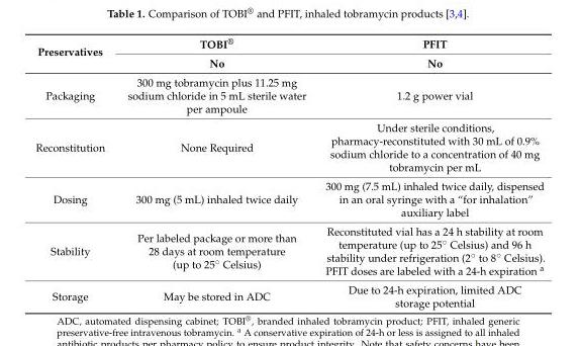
<table><thead><tr><td rowspan="2">Preservatives</td><td rowspan="2">TOBI<sup>®</sup> No</td><td rowspan="2">PFIT No</td></tr><tr></tr></thead><tbody><tr><td>Packaging</td><td>300 mg tobramycin plus 11.25 mg sodium chloride in 5 mL sterile water per ampoule</td><td>1.2 g power vial</td></tr><tr><td>Reconstitution</td><td>None Required</td><td>Under sterile conditions, pharmacy-reconstituted with 30 mL of 0.9% sodium chloride to a concentration of 40 mg tobramycin per mL</td></tr><tr><td>Dosing</td><td>300 mg (5 mL) inhaled twice daily</td><td>300 mg (7.5 mL) inhaled twice daily, dispensed in an oral syringe with a “for inhalation” auxiliary label</td></tr><tr><td>Stability</td><td>Per labeled package or more than 28 days at room temperature (up to 25˝ Celsius)</td><td>Reconstituted vial has a 24 h stability at room temperature (up to 25˝ Celsius) and 96 h stability under refrigeration (2˝ to 8˝ Celsius). PFIT doses are labeled with a 24-h expiration a</td></tr><tr><td>Storage</td><td>May be stored in ADC</td><td>Due to 24-h expiration, limited ADC storage potential</td></tr></tbody></table>